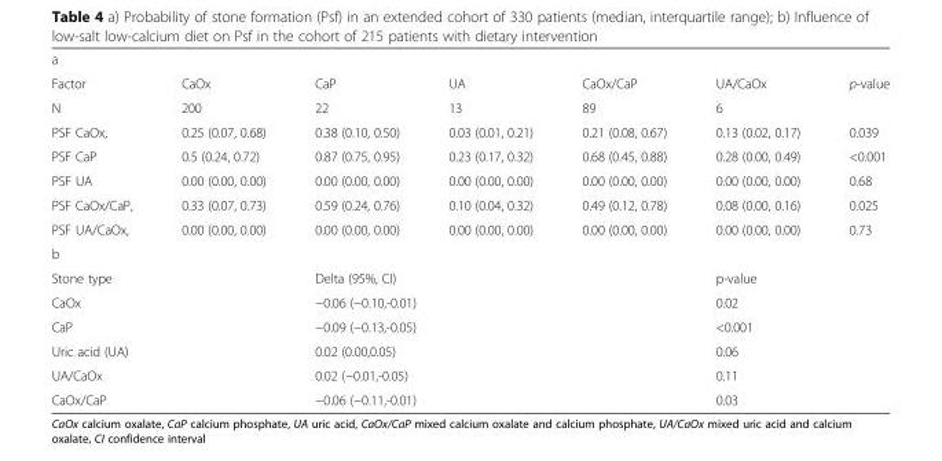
<table><tbody><tr><td colspan="7">a</td></tr><tr><td>Factor</td><td>CaOx</td><td>CaP</td><td>UA</td><td>CaOx/CaP</td><td>UA/CaOx</td><td>p-value</td></tr><tr><td>N</td><td>200</td><td>22</td><td>13</td><td>89</td><td>6</td><td></td></tr><tr><td>PSF CaOx,</td><td>0.25 (0.07, 0.68)</td><td>0.38 (0.10, 0.50)</td><td>0.03 (0.01, 0.21)</td><td>0.21 (0.08, 0.67)</td><td>0.13 (0.02, 0.17)</td><td>0.039</td></tr><tr><td>PSF CaP</td><td>0.5 (0.24, 0.72)</td><td>0.87 (0.75, 0.95)</td><td>0.23 (0.17, 0.32)</td><td>0.68 (0.45, 0.88)</td><td>0.28 (0.00, 0.49)</td><td>&lt;0.001</td></tr><tr><td>PSF UA</td><td>0.00 (0.00, 0.00)</td><td>0.00 (0.00, 0.00)</td><td>0.00 (0.00, 0.00)</td><td>0.00 (0.00, 0.00)</td><td>0.00 (0.00, 0.00)</td><td>0.68</td></tr><tr><td>PSF CaOx/CaP,</td><td>0.33 (0.07, 0.73)</td><td>0.59 (0.24, 0.76)</td><td>0.10 (0.04, 0.32)</td><td>0.49 (0.12, 0.78)</td><td>0.08 (0.00, 0.16)</td><td>0.025</td></tr><tr><td>PSF UA/CaOx,</td><td>0.00 (0.00, 0.00)</td><td>0.00 (0.00, 0.00)</td><td>0.00 (0.00, 0.00)</td><td>0.00 (0.00, 0.00)</td><td>0.00 (0.00, 0.00)</td><td>0.73</td></tr><tr><td colspan="7">b</td></tr><tr><td colspan="2">Stone type</td><td colspan="3">Delta (95%, CI)</td><td colspan="2">p-value</td></tr><tr><td colspan="2">CaOx</td><td colspan="3">−0.06 (−0.10,-0.01)</td><td colspan="2">0.02</td></tr><tr><td colspan="2">CaP</td><td colspan="3">−0.09 (−0.13,-0.05)</td><td colspan="2">&lt;0.001</td></tr><tr><td colspan="2">Uric acid (UA)</td><td colspan="3">0.02 (0.00,0.05)</td><td colspan="2">0.06</td></tr><tr><td colspan="2">UA/CaOx</td><td colspan="3">0.02 (−0.01,-0.05)</td><td colspan="2">0.11</td></tr><tr><td colspan="2">CaOx/CaP</td><td colspan="3">−0.06 (−0.11,-0.01)</td><td colspan="2">0.03</td></tr></tbody></table>